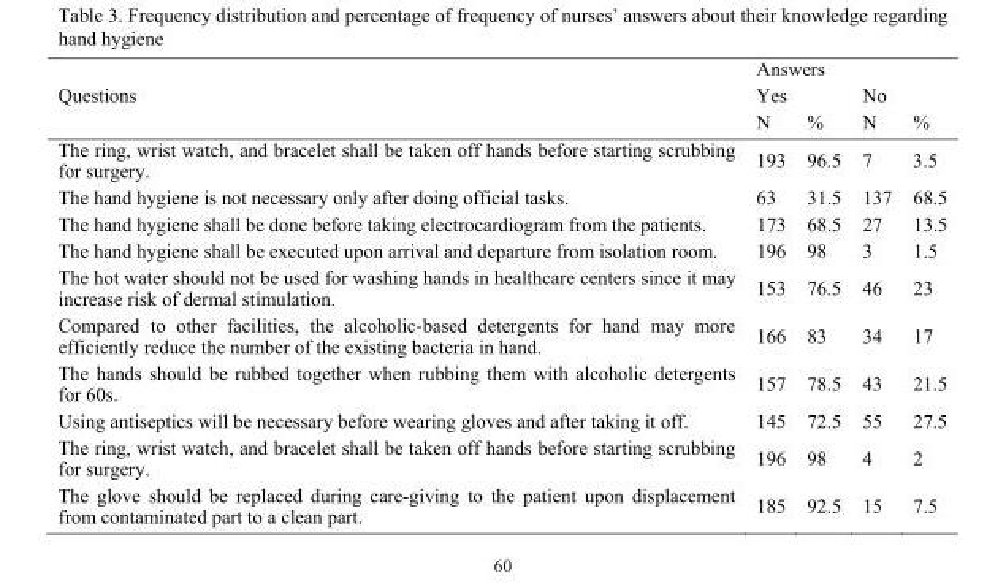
<table><thead><tr><td rowspan="3">Questions</td><td colspan="4">Answers</td></tr><tr><td colspan="2">Yes</td><td colspan="2">No</td></tr><tr><td>N</td><td>%</td><td>N</td><td>%</td></tr></thead><tbody><tr><td>The ring, wrist watch, and bracelet shall be taken off hands before starting scrubbing for surgery.</td><td>193</td><td>96.5</td><td>7</td><td>3.5</td></tr><tr><td>The hand hygiene is not necessary only after doing official tasks.</td><td>63</td><td>31.5</td><td>137</td><td>68.5</td></tr><tr><td>The hand hygiene shall be done before taking electrocardiogram from the patients.</td><td>173</td><td>68.5</td><td>27</td><td>13.5</td></tr><tr><td>The hand hygiene shall be executed upon arrival and departure from isolation room.</td><td>196</td><td>98</td><td>3</td><td>1.5</td></tr><tr><td>The hot water should not be used for washing hands in healthcare centers since it may increase risk of dermal stimulation.</td><td>153</td><td>76.5</td><td>46</td><td>23</td></tr><tr><td>Compared to other facilities, the alcoholic-based detergents for hand may more efficiently reduce the number of the existing bacteria in hand.</td><td>166</td><td>83</td><td>34</td><td>17</td></tr><tr><td>The hands should be rubbed together when rubbing them with alcoholic detergents for 60s.</td><td>157</td><td>78.5</td><td>43</td><td>21.5</td></tr><tr><td>Using antiseptics will be necessary before wearing gloves and after taking it off.</td><td>145</td><td>72.5</td><td>55</td><td>27.5</td></tr><tr><td>The ring, wrist watch, and bracelet shall be taken off hands before starting scrubbing for surgery.</td><td>196</td><td>98</td><td>4</td><td>2</td></tr><tr><td>The glove should be replaced during care-giving to the patient upon displacement from contaminated part to a clean part.</td><td>185</td><td>92.5</td><td>15</td><td>7.5</td></tr></tbody></table>